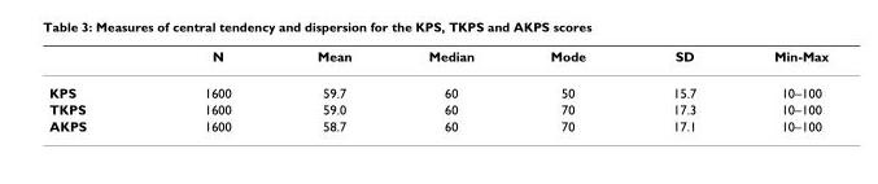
<table><thead><tr><td></td><td>N</td><td>Mean</td><td>Median</td><td>Mode</td><td>SD</td><td>Min-Max</td></tr></thead><tbody><tr><td>KPS</td><td>1600</td><td>59.7</td><td>60</td><td>50</td><td>15.7</td><td>10–100</td></tr><tr><td>TKPS</td><td>1600</td><td>59.0</td><td>60</td><td>70</td><td>17.3</td><td>10–100</td></tr><tr><td>AKPS</td><td>1600</td><td>58.7</td><td>60</td><td>70</td><td>17.1</td><td>10–100</td></tr></tbody></table>